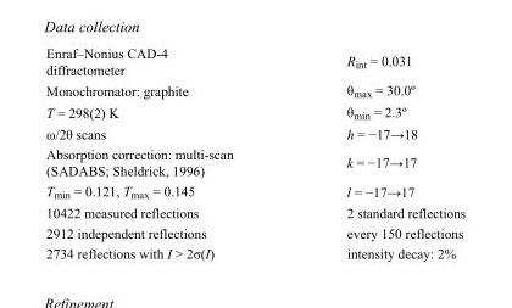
<table><tbody><tr><td>Enraf–Nonius CAD-4 diffractometer</td><td>R<sub>int</sub> = 0.031</td></tr><tr><td>Monochromator: graphite</td><td>θ<sub>max</sub> = 30.0º</td></tr><tr><td>T = 298(2) K</td><td>θ<sub>min</sub> = 2.3º</td></tr><tr><td>ω/2θ scans</td><td>h = −17→18</td></tr><tr><td>Absorption correction: multi-scan (SADABS; Sheldrick, 1996)</td><td>k = −17→17</td></tr><tr><td>T<sub>min</sub> = 0.121, T<sub>max</sub> = 0.145</td><td>l = −17→17</td></tr><tr><td>10422 measured reflections</td><td>2 standard reflections</td></tr><tr><td>2912 independent reflections</td><td>every 150 reflections</td></tr><tr><td>2734 reflections with I &gt; 2σ(I)</td><td>intensity decay: 2%</td></tr></tbody></table>